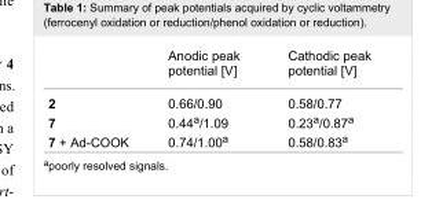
<table><thead><tr><td></td><td>Anodic peak potential [V]</td><td>Cathodic peak potential [V]</td></tr></thead><tbody><tr><td>2</td><td>0.66/0.90</td><td>0.58/0.77</td></tr><tr><td>7</td><td>0.44<sup>a</sup>/1.09</td><td>0.23<sup>a</sup>/0.87<sup>a</sup></td></tr><tr><td>7 + Ad-COOK</td><td>0.74/1.00<sup>a</sup></td><td>0.58/0.83<sup>a</sup></td></tr></tbody></table>